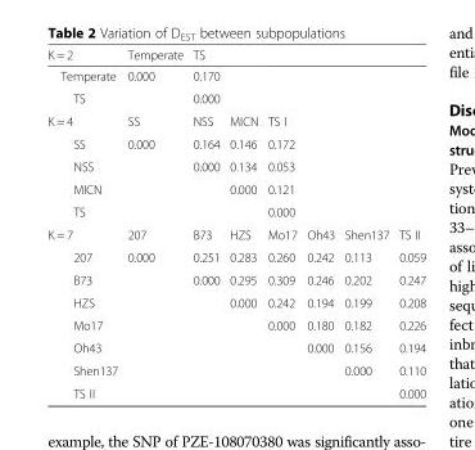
<table><thead><tr><td>K = 2</td><td>Temperate</td><td>TS</td><td></td><td></td><td></td><td></td><td></td></tr></thead><tbody><tr><td>Temperate</td><td>0.000</td><td>0.170</td><td></td><td></td><td></td><td></td><td></td></tr><tr><td>TS</td><td></td><td>0.000</td><td></td><td></td><td></td><td></td><td></td></tr><tr><td>K = 4</td><td>SS</td><td>NSS</td><td>MICN</td><td>TS I</td><td></td><td></td><td></td></tr><tr><td>SS</td><td>0.000</td><td>0.164</td><td>0.146</td><td>0.172</td><td></td><td></td><td></td></tr><tr><td>NSS</td><td></td><td>0.000</td><td>0.134</td><td>0.053</td><td></td><td></td><td></td></tr><tr><td>MICN</td><td></td><td></td><td>0.000</td><td>0.121</td><td></td><td></td><td></td></tr><tr><td>TS</td><td></td><td></td><td></td><td>0.000</td><td></td><td></td><td></td></tr><tr><td>K = 7</td><td>207</td><td>B73</td><td>HZS</td><td>Mo17</td><td>Oh43</td><td>Shen137</td><td>TS II</td></tr><tr><td>207</td><td>0.000</td><td>0.251</td><td>0.283</td><td>0.260</td><td>0.242</td><td>0.113</td><td>0.059</td></tr><tr><td>B73</td><td></td><td>0.000</td><td>0.295</td><td>0.309</td><td>0.246</td><td>0.202</td><td>0.247</td></tr><tr><td>HZS</td><td></td><td></td><td>0.000</td><td>0.242</td><td>0.194</td><td>0.199</td><td>0.208</td></tr><tr><td>Mo17</td><td></td><td></td><td></td><td>0.000</td><td>0.180</td><td>0.182</td><td>0.226</td></tr><tr><td>Oh43</td><td></td><td></td><td></td><td></td><td>0.000</td><td>0.156</td><td>0.194</td></tr><tr><td>Shen137</td><td></td><td></td><td></td><td></td><td></td><td>0.000</td><td>0.110</td></tr><tr><td>TS II</td><td></td><td></td><td></td><td></td><td></td><td></td><td>0.000</td></tr></tbody></table>